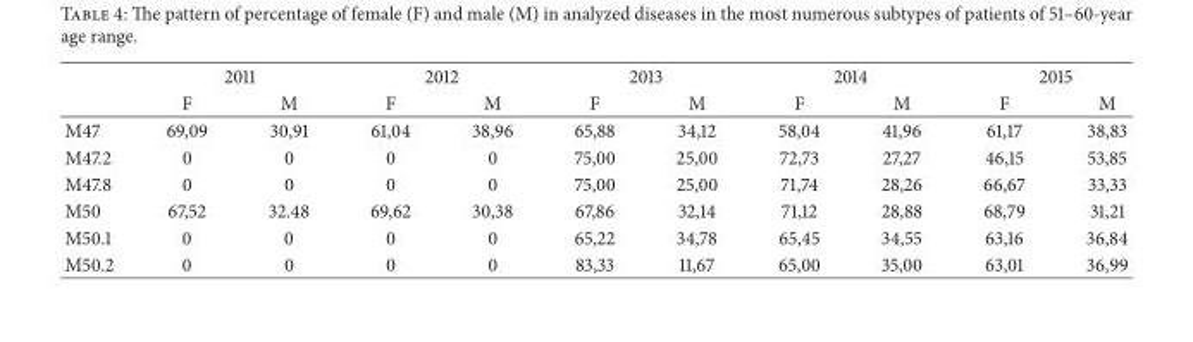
<table><thead><tr><td rowspan="2"></td><td colspan="2">2011</td><td colspan="2">2012</td><td colspan="2">2013</td><td colspan="2">2014</td><td colspan="2">2015</td></tr><tr><td>F</td><td>M</td><td>F</td><td>M</td><td>F</td><td>M</td><td>F</td><td>M</td><td>F</td><td>M</td></tr></thead><tbody><tr><td>M47</td><td>69,09</td><td>30,91</td><td>61,04</td><td>38,96</td><td>65,88</td><td>34,12</td><td>58,04</td><td>41,96</td><td>61,17</td><td>38,83</td></tr><tr><td>M47.2</td><td>0</td><td>0</td><td>0</td><td>0</td><td>75,00</td><td>25,00</td><td>72,73</td><td>27,27</td><td>46,15</td><td>53,85</td></tr><tr><td>M47.8</td><td>0</td><td>0</td><td>0</td><td>0</td><td>75,00</td><td>25,00</td><td>71,74</td><td>28,26</td><td>66,67</td><td>33,33</td></tr><tr><td>M50</td><td>67,52</td><td>32.48</td><td>69,62</td><td>30,38</td><td>67,86</td><td>32,14</td><td>71,12</td><td>28,88</td><td>68,79</td><td>31,21</td></tr><tr><td>M50.1</td><td>0</td><td>0</td><td>0</td><td>0</td><td>65,22</td><td>34,78</td><td>65,45</td><td>34,55</td><td>63,16</td><td>36,84</td></tr><tr><td>M50.2</td><td>0</td><td>0</td><td>0</td><td>0</td><td>83,33</td><td>11,67</td><td>65,00</td><td>35,00</td><td>63,01</td><td>36,99</td></tr></tbody></table>